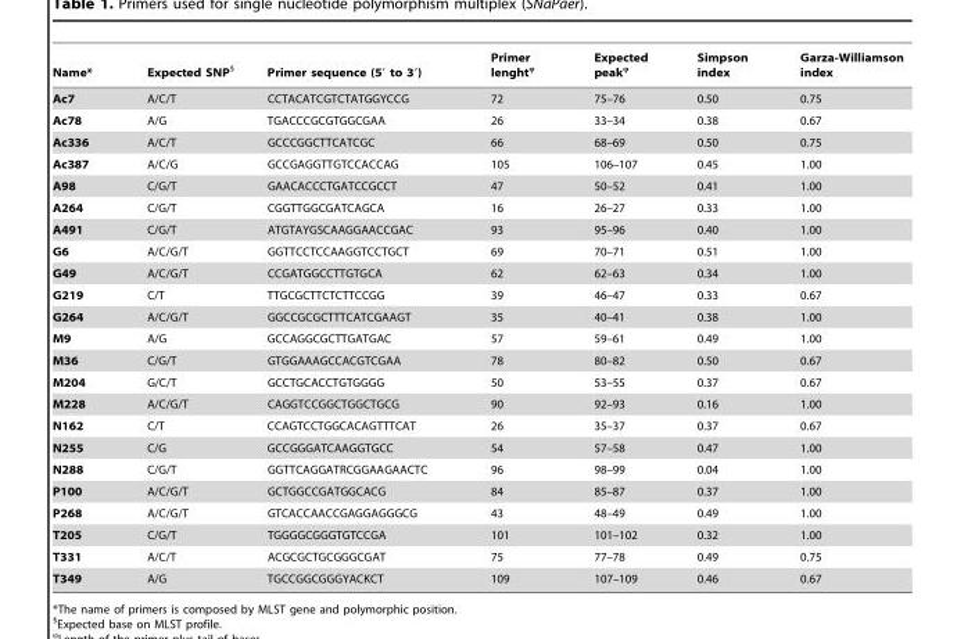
<table><thead><tr><td>Name*</td><td>Expected SNP§</td><td>Primer sequence (5′ to 3′)</td><td>Primer lenghtφ</td><td>Expected peakφ</td><td>Simpson index</td><td>Garza-Williamson index</td></tr></thead><tbody><tr><td>Ac7</td><td>A/C/T</td><td>CCTACATCGTCTATGGYCCG</td><td>72</td><td>75–76</td><td>0.50</td><td>0.75</td></tr><tr><td>Ac78</td><td>A/G</td><td>TGACCCGCGTGGCGAA</td><td>26</td><td>33–34</td><td>0.38</td><td>0.67</td></tr><tr><td>Ac336</td><td>A/C/T</td><td>GCCCGGCTTCATCGC</td><td>66</td><td>68–69</td><td>0.50</td><td>0.75</td></tr><tr><td>Ac387</td><td>A/C/G</td><td>GCCGAGGTTGTCCACCAG</td><td>105</td><td>106–107</td><td>0.45</td><td>1.00</td></tr><tr><td>A98</td><td>C/G/T</td><td>GAACACCCTGATCCGCCT</td><td>47</td><td>50–52</td><td>0.41</td><td>1.00</td></tr><tr><td>A264</td><td>C/G/T</td><td>CGGTTGGCGATCAGCA</td><td>16</td><td>26–27</td><td>0.33</td><td>1.00</td></tr><tr><td>A491</td><td>C/G/T</td><td>ATGTAYGSCAAGGAACCGAC</td><td>93</td><td>95–96</td><td>0.40</td><td>1.00</td></tr><tr><td>G6</td><td>A/C/G/T</td><td>GGTTCCTCCAAGGTCCTGCT</td><td>69</td><td>70–71</td><td>0.51</td><td>1.00</td></tr><tr><td>G49</td><td>A/C/G/T</td><td>CCGATGGCCTTGTGCA</td><td>62</td><td>62–63</td><td>0.34</td><td>1.00</td></tr><tr><td>G219</td><td>C/T</td><td>TTGCGCTTCTCTTCCGG</td><td>39</td><td>46–47</td><td>0.33</td><td>0.67</td></tr><tr><td>G264</td><td>A/C/G/T</td><td>GGCCGCGCTTTCATCGAAGT</td><td>35</td><td>40–41</td><td>0.38</td><td>1.00</td></tr><tr><td>M9</td><td>A/G</td><td>GCCAGGCGCTTGATGAC</td><td>57</td><td>59–61</td><td>0.49</td><td>1.00</td></tr><tr><td>M36</td><td>C/G/T</td><td>GTGGAAAGCCACGTCGAA</td><td>78</td><td>80–82</td><td>0.50</td><td>0.67</td></tr><tr><td>M204</td><td>G/C/T</td><td>GCCTGCACCTGTGGGG</td><td>50</td><td>53–55</td><td>0.37</td><td>0.67</td></tr><tr><td>M228</td><td>A/C/G/T</td><td>CAGGTCCGGCTGGCTGCG</td><td>90</td><td>92–93</td><td>0.16</td><td>1.00</td></tr><tr><td>N162</td><td>C/T</td><td>CCAGTCCTGGCACAGTTTCAT</td><td>26</td><td>35–37</td><td>0.37</td><td>0.67</td></tr><tr><td>N255</td><td>C/G</td><td>GCCGGGATCAAGGTGCC</td><td>54</td><td>57–58</td><td>0.47</td><td>1.00</td></tr><tr><td>N288</td><td>C/G/T</td><td>GGTTCAGGATRCGGAAGAACTC</td><td>96</td><td>98–99</td><td>0.04</td><td>1.00</td></tr><tr><td>P100</td><td>A/C/G/T</td><td>GCTGGCCGATGGCACG</td><td>84</td><td>85–87</td><td>0.37</td><td>1.00</td></tr><tr><td>P268</td><td>A/C/G/T</td><td>GTCACCAACCGAGGAGGGCG</td><td>43</td><td>48–49</td><td>0.49</td><td>1.00</td></tr><tr><td>T205</td><td>C/G/T</td><td>TGGGGCGGGTGTCCGA</td><td>101</td><td>101–102</td><td>0.32</td><td>1.00</td></tr><tr><td>T331</td><td>A/C/T</td><td>ACGCGCTGCGGGCGAT</td><td>75</td><td>77–78</td><td>0.49</td><td>0.75</td></tr><tr><td>T349</td><td>A/G</td><td>TGCCGGCGGGYACKCT</td><td>109</td><td>107–109</td><td>0.46</td><td>0.67</td></tr></tbody></table>